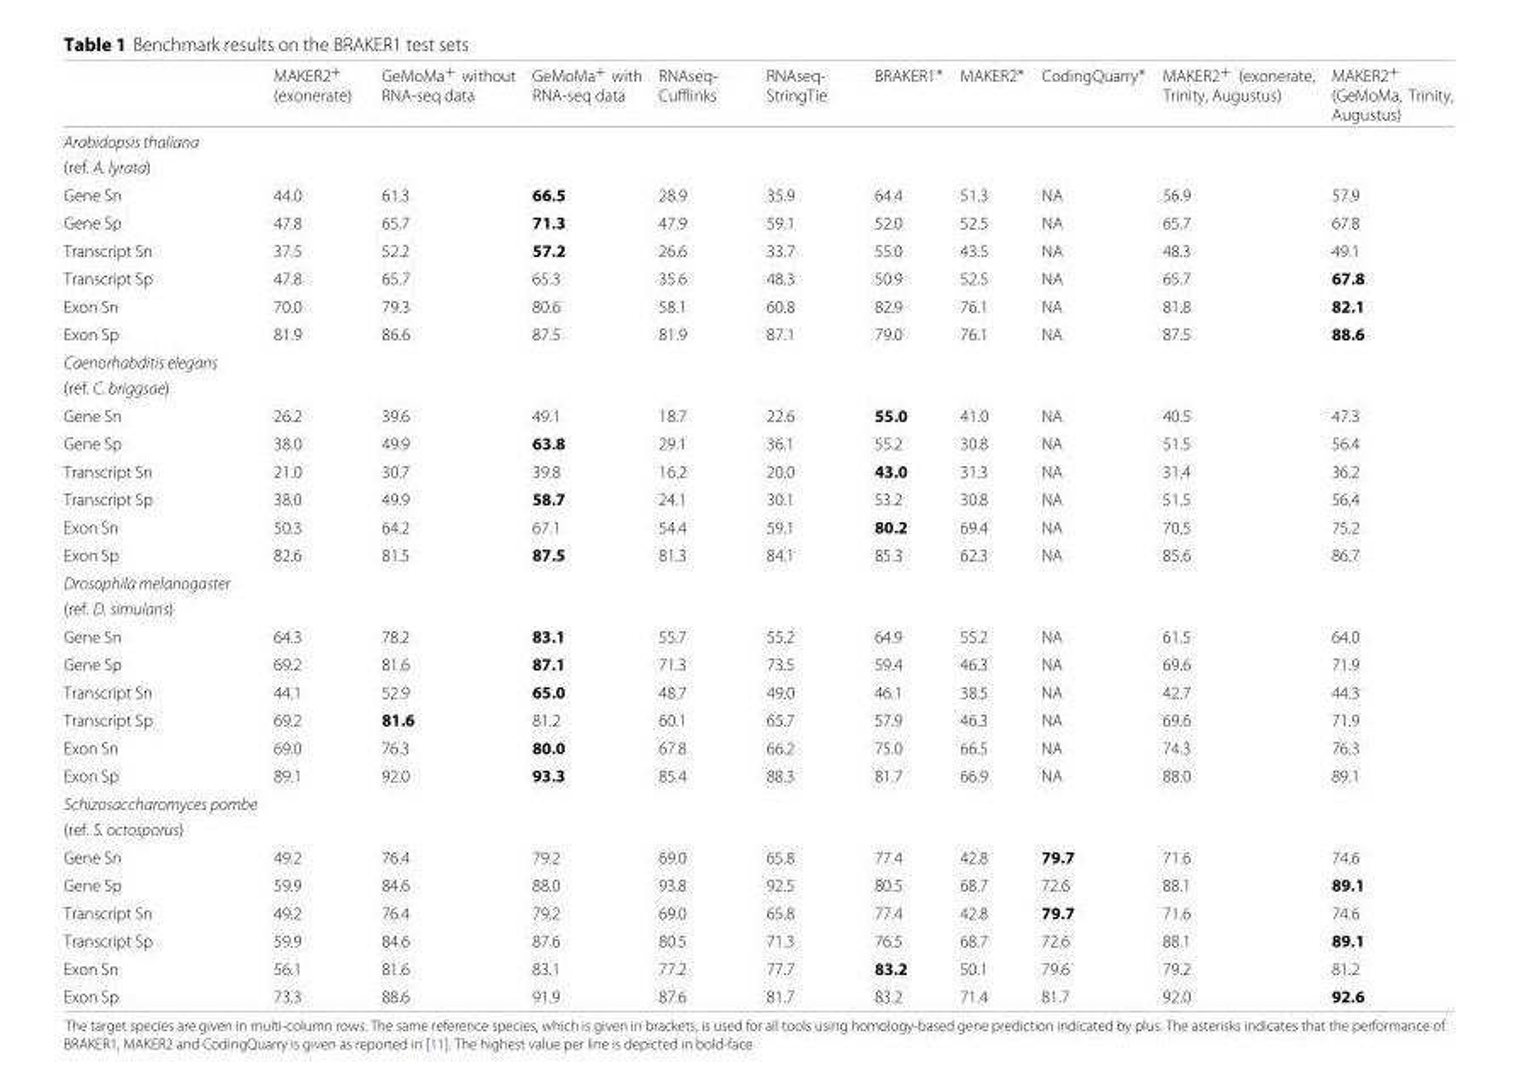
<table><thead><tr><td></td><td>MAKER2<sup>+</sup> (exonerate)</td><td>GeMoMa<sup>+</sup> without RNA-seq data</td><td>GeMoMa<sup>+</sup> with RNA-seq data</td><td>RNAseq- Cufflinks</td><td>RNAseq- StringTie</td><td>BRAKER1∗</td><td>MAKER2∗</td><td>CodingQuarry∗</td><td>MAKER2<sup>+</sup> (exonerate, Trinity, Augustus)</td><td>MAKER2<sup>+</sup> (GeMoMa, Trinity, Augustus)</td></tr></thead><tbody><tr><td colspan="11">Arabidopsis thaliana</td></tr><tr><td colspan="11">(ref. A. lyrata)</td></tr><tr><td>Gene Sn</td><td>44.0</td><td>61.3</td><td>66.5</td><td>28.9</td><td>35.9</td><td>64.4</td><td>51.3</td><td>NA</td><td>56.9</td><td>57.9</td></tr><tr><td>Gene Sp</td><td>47.8</td><td>65.7</td><td>71.3</td><td>47.9</td><td>59.1</td><td>52.0</td><td>52.5</td><td>NA</td><td>65.7</td><td>67.8</td></tr><tr><td>Transcript Sn</td><td>37.5</td><td>52.2</td><td>57.2</td><td>26.6</td><td>33.7</td><td>55.0</td><td>43.5</td><td>NA</td><td>48.3</td><td>49.1</td></tr><tr><td>Transcript Sp</td><td>47.8</td><td>65.7</td><td>65.3</td><td>35.6</td><td>48.3</td><td>50.9</td><td>52.5</td><td>NA</td><td>65.7</td><td>67.8</td></tr><tr><td>Exon Sn</td><td>70.0</td><td>79.3</td><td>80.6</td><td>58.1</td><td>60.8</td><td>82.9</td><td>76.1</td><td>NA</td><td>81.8</td><td>82.1</td></tr><tr><td>Exon Sp</td><td>81.9</td><td>86.6</td><td>87.5</td><td>81.9</td><td>87.1</td><td>79.0</td><td>76.1</td><td>NA</td><td>87.5</td><td>88.6</td></tr><tr><td colspan="11">Caenorhabditis elegans</td></tr><tr><td colspan="11">(ref. C. briggsae)</td></tr><tr><td>Gene Sn</td><td>26.2</td><td>39.6</td><td>49.1</td><td>18.7</td><td>22.6</td><td>55.0</td><td>41.0</td><td>NA</td><td>40.5</td><td>47.3</td></tr><tr><td>Gene Sp</td><td>38.0</td><td>49.9</td><td>63.8</td><td>29.1</td><td>36.1</td><td>55.2</td><td>30.8</td><td>NA</td><td>51.5</td><td>56.4</td></tr><tr><td>Transcript Sn</td><td>21.0</td><td>30.7</td><td>39.8</td><td>16.2</td><td>20.0</td><td>43.0</td><td>31.3</td><td>NA</td><td>31.4</td><td>36.2</td></tr><tr><td>Transcript Sp</td><td>38.0</td><td>49.9</td><td>58.7</td><td>24.1</td><td>30.1</td><td>53.2</td><td>30.8</td><td>NA</td><td>51.5</td><td>56.4</td></tr><tr><td>Exon Sn</td><td>50.3</td><td>64.2</td><td>67.1</td><td>54.4</td><td>59.1</td><td>80.2</td><td>69.4</td><td>NA</td><td>70.5</td><td>75.2</td></tr><tr><td>Exon Sp</td><td>82.6</td><td>81.5</td><td>87.5</td><td>81.3</td><td>84.1</td><td>85.3</td><td>62.3</td><td>NA</td><td>85.6</td><td>86.7</td></tr><tr><td colspan="11">Drosophila melanogaster</td></tr><tr><td colspan="11">(ref. D. simulans)</td></tr><tr><td>Gene Sn</td><td>64.3</td><td>78.2</td><td>83.1</td><td>55.7</td><td>55.2</td><td>64.9</td><td>55.2</td><td>NA</td><td>61.5</td><td>64.0</td></tr><tr><td>Gene Sp</td><td>69.2</td><td>81.6</td><td>87.1</td><td>71.3</td><td>73.5</td><td>59.4</td><td>46.3</td><td>NA</td><td>69.6</td><td>71.9</td></tr><tr><td>Transcript Sn</td><td>44.1</td><td>52.9</td><td>65.0</td><td>48.7</td><td>49.0</td><td>46.1</td><td>38.5</td><td>NA</td><td>42.7</td><td>44.3</td></tr><tr><td>Transcript Sp</td><td>69.2</td><td>81.6</td><td>81.2</td><td>60.1</td><td>65.7</td><td>57.9</td><td>46.3</td><td>NA</td><td>69.6</td><td>71.9</td></tr><tr><td>Exon Sn</td><td>69.0</td><td>76.3</td><td>80.0</td><td>67.8</td><td>66.2</td><td>75.0</td><td>66.5</td><td>NA</td><td>74.3</td><td>76.3</td></tr><tr><td>Exon Sp</td><td>89.1</td><td>92.0</td><td>93.3</td><td>85.4</td><td>88.3</td><td>81.7</td><td>66.9</td><td>NA</td><td>88.0</td><td>89.1</td></tr><tr><td colspan="11">Schizosaccharomyces pombe</td></tr><tr><td colspan="11">(ref. S. octosporus)</td></tr><tr><td>Gene Sn</td><td>49.2</td><td>76.4</td><td>79.2</td><td>69.0</td><td>65.8</td><td>77.4</td><td>42.8</td><td>79.7</td><td>71.6</td><td>74.6</td></tr><tr><td>Gene Sp</td><td>59.9</td><td>84.6</td><td>88.0</td><td>93.8</td><td>92.5</td><td>80.5</td><td>68.7</td><td>72.6</td><td>88.1</td><td>89.1</td></tr><tr><td>Transcript Sn</td><td>49.2</td><td>76.4</td><td>79.2</td><td>69.0</td><td>65.8</td><td>77.4</td><td>42.8</td><td>79.7</td><td>71.6</td><td>74.6</td></tr><tr><td>Transcript Sp</td><td>59.9</td><td>84.6</td><td>87.6</td><td>80.5</td><td>71.3</td><td>76.5</td><td>68.7</td><td>72.6</td><td>88.1</td><td>89.1</td></tr><tr><td>Exon Sn</td><td>56.1</td><td>81.6</td><td>83.1</td><td>77.2</td><td>77.7</td><td>83.2</td><td>50.1</td><td>79.6</td><td>79.2</td><td>81.2</td></tr><tr><td>Exon Sp</td><td>73.3</td><td>88.6</td><td>91.9</td><td>87.6</td><td>81.7</td><td>83.2</td><td>71.4</td><td>81.7</td><td>92.0</td><td>92.6</td></tr></tbody></table>